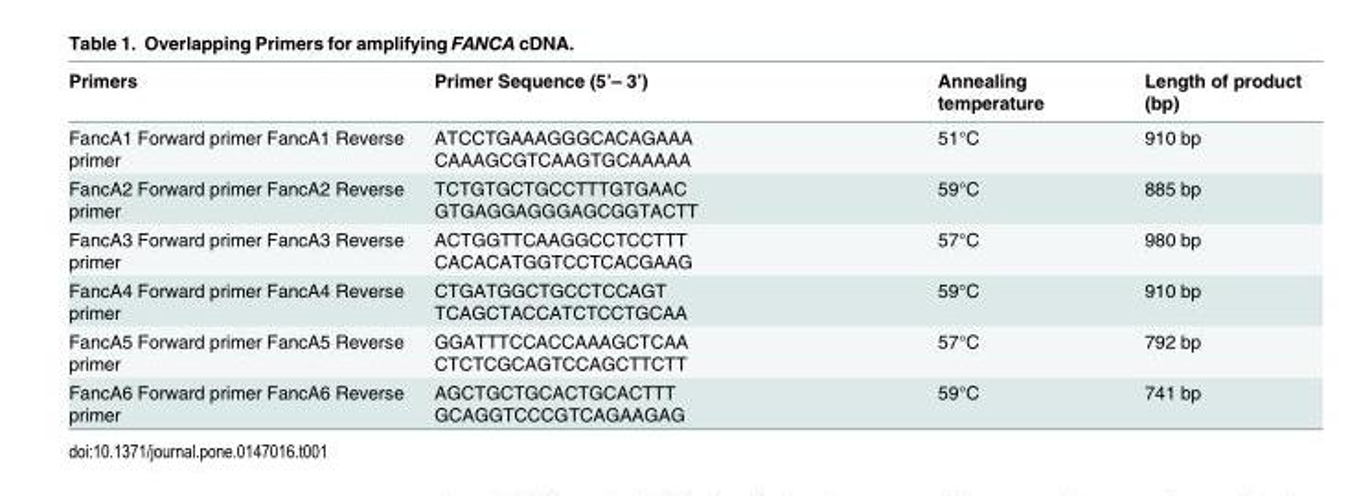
<table><thead><tr><td>Primers</td><td>Primer Sequence (5’– 3’)</td><td>Annealing temperature</td><td>Length of product (bp)</td></tr></thead><tbody><tr><td>FancA1 Forward primer FancA1 Reverse primer</td><td>ATCCTGAAAGGGCACAGAAA CAAAGCGTCAAGTGCAAAAA</td><td>51°C</td><td>910 bp</td></tr><tr><td>FancA2 Forward primer FancA2 Reverse primer</td><td>TCTGTGCTGCCTTTGTGAAC GTGAGGAGGGAGCGGTACTT</td><td>59°C</td><td>885 bp</td></tr><tr><td>FancA3 Forward primer FancA3 Reverse primer</td><td>ACTGGTTCAAGGCCTCCTTT CACACATGGTCCTCACGAAG</td><td>57°C</td><td>980 bp</td></tr><tr><td>FancA4 Forward primer FancA4 Reverse primer</td><td>CTGATGGCTGCCTCCAGT TCAGCTACCATCTCCTGCAA</td><td>59°C</td><td>910 bp</td></tr><tr><td>FancA5 Forward primer FancA5 Reverse primer</td><td>GGATTTCCACCAAAGCTCAA CTCTCGCAGTCCAGCTTCTT</td><td>57°C</td><td>792 bp</td></tr><tr><td>FancA6 Forward primer FancA6 Reverse primer</td><td>AGCTGCTGCACTGCACTTT GCAGGTCCCGTCAGAAGAG</td><td>59°C</td><td>741 bp</td></tr></tbody></table>